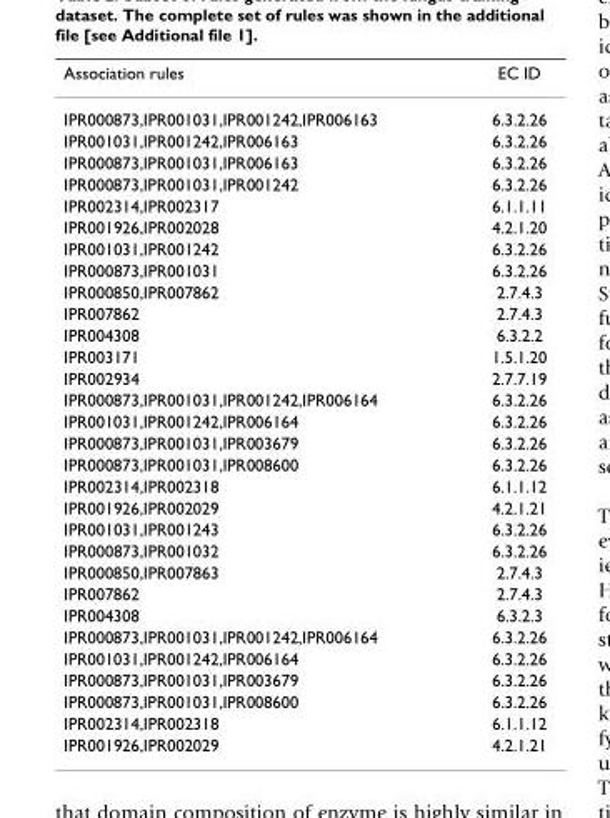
<table><thead><tr><td>Association rules</td><td>EC ID</td></tr></thead><tbody><tr><td>IPR000873,IPR001031,IPR001242,IPR006163</td><td>6.3.2.26</td></tr><tr><td>IPR001031,IPR001242,IPR006163</td><td>6.3.2.26</td></tr><tr><td>IPR000873,IPR001031,IPR006163</td><td>6.3.2.26</td></tr><tr><td>IPR000873,IPR001031,IPR001242</td><td>6.3.2.26</td></tr><tr><td>IPR002314,IPR002317</td><td>6.1.1.11</td></tr><tr><td>IPR001926,IPR002028</td><td>4.2.1.20</td></tr><tr><td>IPR001031,IPR001242</td><td>6.3.2.26</td></tr><tr><td>IPR000873,IPR001031</td><td>6.3.2.26</td></tr><tr><td>IPR000850,IPR007862</td><td>2.7.4.3</td></tr><tr><td>IPR007862</td><td>2.7.4.3</td></tr><tr><td>IPR004308</td><td>6.3.2.2</td></tr><tr><td>IPR003171</td><td>1.5.1.20</td></tr><tr><td>IPR002934</td><td>2.7.7.19</td></tr><tr><td>IPR000873,IPR001031,IPR001242,IPR006164</td><td>6.3.2.26</td></tr><tr><td>IPR001031,IPR001242,IPR006164</td><td>6.3.2.26</td></tr><tr><td>IPR000873,IPR001031,IPR003679</td><td>6.3.2.26</td></tr><tr><td>IPR000873,IPR001031,IPR008600</td><td>6.3.2.26</td></tr><tr><td>IPR002314,IPR002318</td><td>6.1.1.12</td></tr><tr><td>IPR001926,IPR002029</td><td>4.2.1.21</td></tr><tr><td>IPR001031,IPR001243</td><td>6.3.2.26</td></tr><tr><td>IPR000873,IPR001032</td><td>6.3.2.26</td></tr><tr><td>IPR000850,IPR007863</td><td>2.7.4.3</td></tr><tr><td>IPR007862</td><td>2.7.4.3</td></tr><tr><td>IPR004308</td><td>6.3.2.3</td></tr><tr><td>IPR000873,IPR001031,IPR001242,IPR006164</td><td>6.3.2.26</td></tr><tr><td>IPR001031,IPR001242,IPR006164</td><td>6.3.2.26</td></tr><tr><td>IPR000873,IPR001031,IPR003679</td><td>6.3.2.26</td></tr><tr><td>IPR000873,IPR001031,IPR008600</td><td>6.3.2.26</td></tr><tr><td>IPR002314,IPR002318</td><td>6.1.1.12</td></tr><tr><td>IPR001926,IPR002029</td><td>4.2.1.21</td></tr></tbody></table>